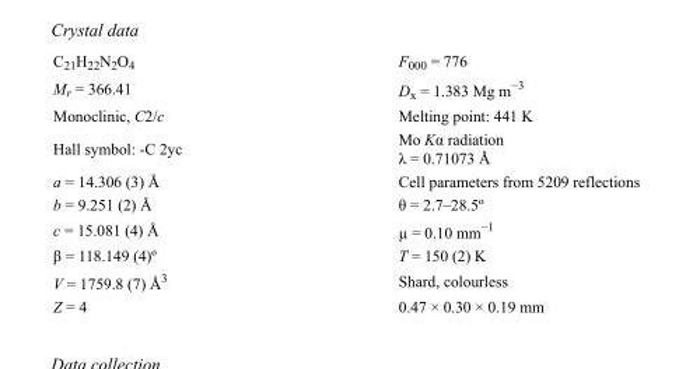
<table><tbody><tr><td>C<sub>21</sub>H<sub>22</sub>N<sub>2</sub>O<sub>4</sub></td><td>F000 = 776</td></tr><tr><td>M<sub>r</sub> = 366.41</td><td>D<sub>x</sub> = 1.383 Mg m<sup>−3</sup></td></tr><tr><td>Monoclinic, C2/c</td><td>Melting point: 441 K</td></tr><tr><td>Hall symbol: -C 2yc</td><td>Mo Kα radiation λ = 0.71073 Å</td></tr><tr><td>a = 14.306 (3) Å</td><td>Cell parameters from 5209 reflections</td></tr><tr><td>b = 9.251 (2) Å</td><td>θ = 2.7–28.5º</td></tr><tr><td>c = 15.081 (4) Å</td><td>µ = 0.10 mm<sup>−1</sup></td></tr><tr><td>β = 118.149 (4)º</td><td>T = 150 (2) K</td></tr><tr><td>V = 1759.8 (7) Å<sup>3</sup></td><td>Shard, colourless</td></tr><tr><td>Z = 4</td><td>0.47 × 0.30 × 0.19 mm</td></tr></tbody></table>